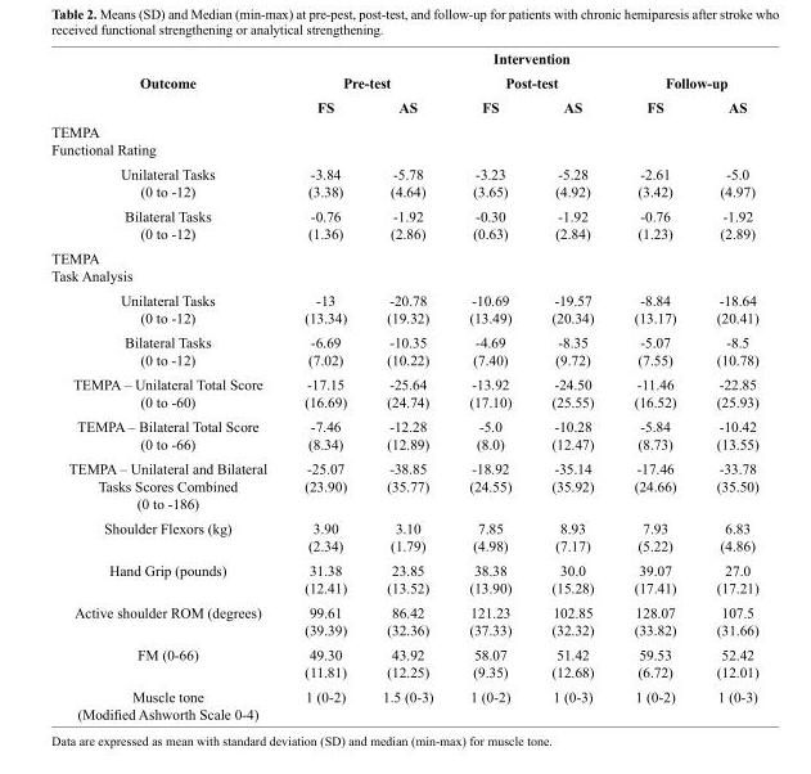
<table><thead><tr><td rowspan="3">Outcome</td><td colspan="6">Intervention</td></tr><tr><td colspan="2">Pre-test</td><td colspan="2">Post-test</td><td colspan="2">Follow-up</td></tr><tr><td>FS</td><td>AS</td><td>FS</td><td>AS</td><td>FS</td><td>AS</td></tr></thead><tbody><tr><td colspan="7">TEMPA Functional Rating</td></tr><tr><td>Unilateral Tasks (0 to -12)</td><td>-3.84 (3.38)</td><td>-5.78 (4.64)</td><td>-3.23 (3.65)</td><td>-5.28 (4.92)</td><td>-2.61 (3.42)</td><td>-5.0 (4.97)</td></tr><tr><td>Bilateral Tasks (0 to -12)</td><td>-0.76 (1.36)</td><td>-1.92 (2.86)</td><td>-0.30 (0.63)</td><td>-1.92 (2.84)</td><td>-0.76 (1.23)</td><td>-1.92 (2.89)</td></tr><tr><td colspan="7">TEMPA Task Analysis</td></tr><tr><td>Unilateral Tasks (0 to -12)</td><td>-13 (13.34)</td><td>-20.78 (19.32)</td><td>-10.69 (13.49)</td><td>-19.57 (20.34)</td><td>-8.84 (13.17)</td><td>-18.64 (20.41)</td></tr><tr><td>Bilateral Tasks (0 to -12)</td><td>-6.69 (7.02)</td><td>-10.35 (10.22)</td><td>-4.69 (7.40)</td><td>-8.35 (9.72)</td><td>-5.07 (7.55)</td><td>-8.5 (10.78)</td></tr><tr><td>TEMPA – Unilateral Total Score (0 to -60)</td><td>-17.15 (16.69)</td><td>-25.64 (24.74)</td><td>-13.92 (17.10)</td><td>-24.50 (25.55)</td><td>-11.46 (16.52)</td><td>-22.85 (25.93)</td></tr><tr><td>TEMPA – Bilateral Total Score (0 to -66)</td><td>-7.46 (8.34)</td><td>-12.28 (12.89)</td><td>-5.0 (8.0)</td><td>-10.28 (12.47)</td><td>-5.84 (8.73)</td><td>-10.42 (13.55)</td></tr><tr><td>TEMPA – Unilateral and Bilateral Tasks Scores Combined (0 to -186)</td><td>-25.07 (23.90)</td><td>-38.85 (35.77)</td><td>-18.92 (24.55)</td><td>-35.14 (35.92)</td><td>-17.46 (24.66)</td><td>-33.78 (35.50)</td></tr><tr><td>Shoulder Flexors (kg)</td><td>3.90 (2.34)</td><td>3.10 (1.79)</td><td>7.85 (4.98)</td><td>8.93 (7.17)</td><td>7.93 (5.22)</td><td>6.83 (4.86)</td></tr><tr><td>Hand Grip (pounds)</td><td>31.38 (12.41)</td><td>23.85 (13.52)</td><td>38.38 (13.90)</td><td>30.0 (15.28)</td><td>39.07 (17.41)</td><td>27.0 (17.21)</td></tr><tr><td>Active shoulder ROM (degrees)</td><td>99.61 (39.39)</td><td>86.42 (32.36)</td><td>121.23 (37.33)</td><td>102.85 (32.32)</td><td>128.07 (33.82)</td><td>107.5 (31.66)</td></tr><tr><td>FM (0-66)</td><td>49.30 (11.81)</td><td>43.92 (12.25)</td><td>58.07 (9.35)</td><td>51.42 (12.68)</td><td>59.53 (6.72)</td><td>52.42 (12.01)</td></tr><tr><td>Muscle tone (Modified Ashworth Scale 0-4)</td><td>1 (0-2)</td><td>1.5 (0-3)</td><td>1 (0-2)</td><td>1 (0-3)</td><td>1 (0-2)</td><td>1 (0-3)</td></tr></tbody></table>